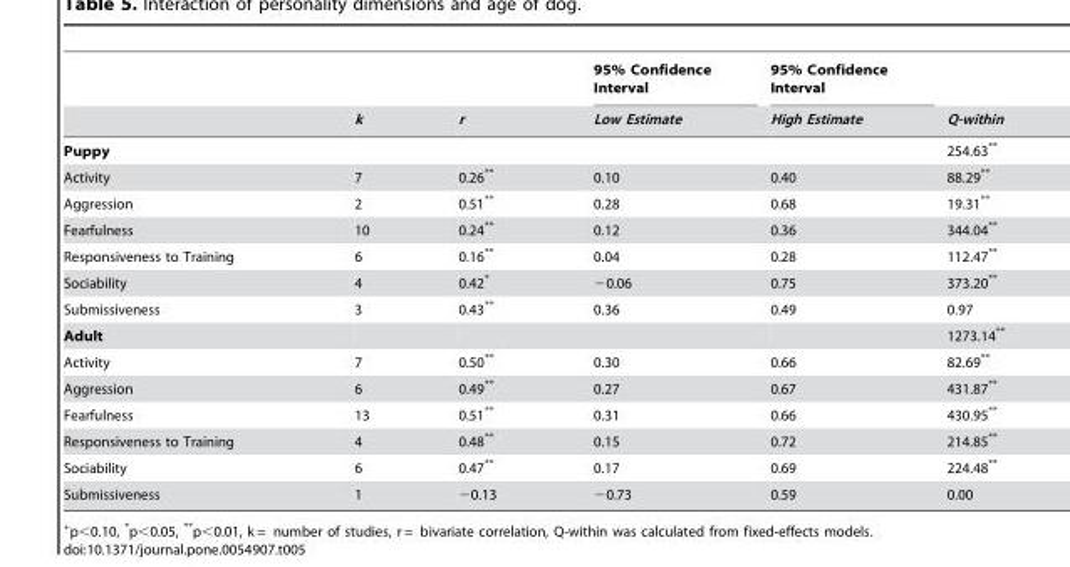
<table><thead><tr><td rowspan="2"></td><td rowspan="2">k</td><td rowspan="2">r</td><td rowspan="2">95% Confidence Interval Low Estimate</td><td rowspan="2">95% Confidence Interval High Estimate</td><td rowspan="2">Q-within</td></tr><tr></tr></thead><tbody><tr><td>Puppy</td><td></td><td></td><td></td><td></td><td>254.63**</td></tr><tr><td>Activity</td><td>7</td><td>0.26**</td><td>0.10</td><td>0.40</td><td>88.29**</td></tr><tr><td>Aggression</td><td>2</td><td>0.51**</td><td>0.28</td><td>0.68</td><td>19.31**</td></tr><tr><td>Fearfulness</td><td>10</td><td>0.24**</td><td>0.12</td><td>0.36</td><td>344.04**</td></tr><tr><td>Responsiveness to Training</td><td>6</td><td>0.16**</td><td>0.04</td><td>0.28</td><td>112.47**</td></tr><tr><td>Sociability</td><td>4</td><td>0.42*</td><td>−0.06</td><td>0.75</td><td>373.20**</td></tr><tr><td>Submissiveness</td><td>3</td><td>0.43**</td><td>0.36</td><td>0.49</td><td>0.97</td></tr><tr><td>Adult</td><td></td><td></td><td></td><td></td><td>1273.14**</td></tr><tr><td>Activity</td><td>7</td><td>0.50**</td><td>0.30</td><td>0.66</td><td>82.69**</td></tr><tr><td>Aggression</td><td>6</td><td>0.49**</td><td>0.27</td><td>0.67</td><td>431.87**</td></tr><tr><td>Fearfulness</td><td>13</td><td>0.51**</td><td>0.31</td><td>0.66</td><td>430.95**</td></tr><tr><td>Responsiveness to Training</td><td>4</td><td>0.48**</td><td>0.15</td><td>0.72</td><td>214.85**</td></tr><tr><td>Sociability</td><td>6</td><td>0.47**</td><td>0.17</td><td>0.69</td><td>224.48**</td></tr><tr><td>Submissiveness</td><td>1</td><td>−0.13</td><td>−0.73</td><td>0.59</td><td>0.00</td></tr></tbody></table>